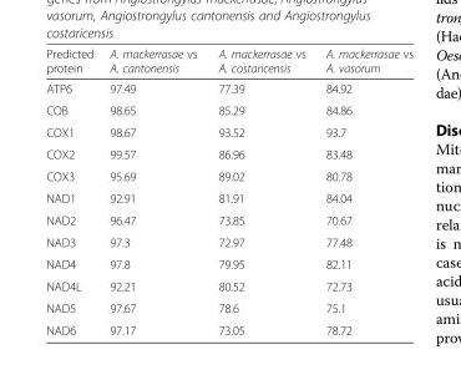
<table><thead><tr><td>Predicted protein</td><td>A. mackerrasae vs A. cantonensis</td><td>A. mackerrasae vs A. costaricensis</td><td>A. mackerrasae vs A. vasorum</td></tr></thead><tbody><tr><td>ATP6</td><td>97.49</td><td>77.39</td><td>84.92</td></tr><tr><td>COB</td><td>98.65</td><td>85.29</td><td>84.86</td></tr><tr><td>COX1</td><td>98.67</td><td>93.52</td><td>93.7</td></tr><tr><td>COX2</td><td>99.57</td><td>86.96</td><td>83.48</td></tr><tr><td>COX3</td><td>95.69</td><td>89.02</td><td>80.78</td></tr><tr><td>NAD1</td><td>92.91</td><td>81.91</td><td>84.04</td></tr><tr><td>NAD2</td><td>96.47</td><td>73.85</td><td>70.67</td></tr><tr><td>NAD3</td><td>97.3</td><td>72.97</td><td>77.48</td></tr><tr><td>NAD4</td><td>97.8</td><td>79.95</td><td>82.11</td></tr><tr><td>NAD4L</td><td>92.21</td><td>80.52</td><td>72.73</td></tr><tr><td>NAD5</td><td>97.67</td><td>78.6</td><td>75.1</td></tr><tr><td>NAD6</td><td>97.17</td><td>73.05</td><td>78.72</td></tr></tbody></table>